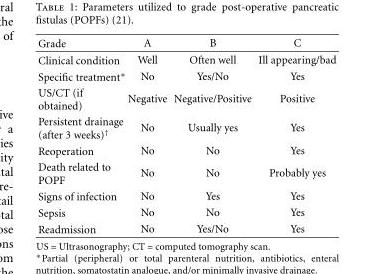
<table><thead><tr><td>Grade</td><td>A</td><td>B</td><td>C</td></tr></thead><tbody><tr><td>Clinical condition</td><td>Well</td><td>Often well</td><td>Ill appearing/bad</td></tr><tr><td>Specific treatment∗</td><td>No</td><td>Yes/No</td><td>Yes</td></tr><tr><td>US/CT (if obtained)</td><td>Negative</td><td>Negative/Positive</td><td>Positive</td></tr><tr><td>Persistent drainage (after 3 weeks)<sup>†</sup></td><td>No</td><td>Usually yes</td><td>Yes</td></tr><tr><td>Reoperation</td><td>No</td><td>No</td><td>Yes</td></tr><tr><td>Death related to POPF</td><td>No</td><td>No</td><td>Probably yes</td></tr><tr><td>Signs of infection</td><td>No</td><td>Yes</td><td>Yes</td></tr><tr><td>Sepsis</td><td>No</td><td>No</td><td>Yes</td></tr><tr><td>Readmission</td><td>No</td><td>Yes/No</td><td>Yes</td></tr></tbody></table>